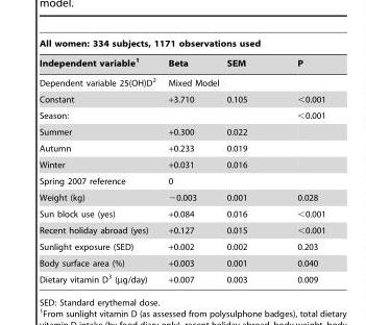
<table><thead><tr><td colspan="4">All women: 334 subjects, 1171 observations used</td></tr><tr><td>Independent variable<sup>1</sup></td><td>Beta</td><td>SEM</td><td>P</td></tr></thead><tbody><tr><td>Dependent variable 25(OH)D<sup>2</sup></td><td colspan="3">Mixed Model</td></tr><tr><td>Constant</td><td>+3.710</td><td>0.105</td><td>&lt;0.001</td></tr><tr><td>Season:</td><td></td><td></td><td>&lt;0.001</td></tr><tr><td>Summer</td><td>+0.300</td><td>0.022</td><td></td></tr><tr><td>Autumn</td><td>+0.233</td><td>0.019</td><td></td></tr><tr><td>Winter</td><td>+0.031</td><td>0.016</td><td></td></tr><tr><td>Spring 2007 reference</td><td>0</td><td></td><td></td></tr><tr><td>Weight (kg)</td><td>−0.003</td><td>0.001</td><td>0.028</td></tr><tr><td>Sun block use (yes)</td><td>+0.084</td><td>0.016</td><td>&lt;0.001</td></tr><tr><td>Recent holiday abroad (yes)</td><td>+0.127</td><td>0.015</td><td>&lt;0.001</td></tr><tr><td>Sunlight exposure (SED)</td><td>+0.002</td><td>0.002</td><td>0.203</td></tr><tr><td>Body surface area (%)</td><td>+0.003</td><td>0.001</td><td>0.040</td></tr><tr><td>Dietary vitamin D<sup>3</sup> (µg/day)</td><td>+0.007</td><td>0.003</td><td>0.009</td></tr></tbody></table>